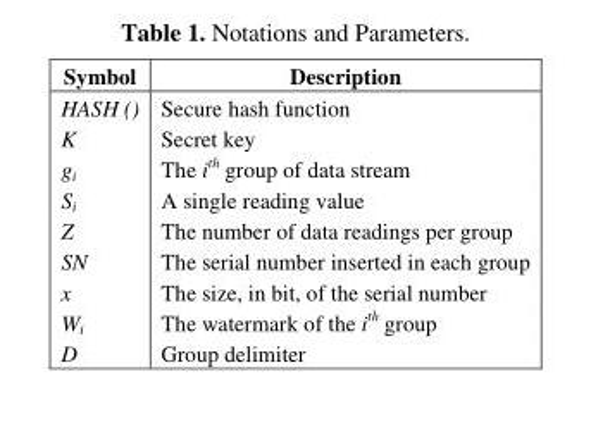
<table><thead><tr><td>Symbol</td><td>Description</td></tr></thead><tbody><tr><td>HASH ()</td><td>Secure hash function</td></tr><tr><td>K</td><td>Secret key</td></tr><tr><td>g<sub>i</sub></td><td>The i<sup>th</sup> group of data stream</td></tr><tr><td>S<sub>i</sub></td><td>A single reading value</td></tr><tr><td>Z</td><td>The number of data readings per group</td></tr><tr><td>SN</td><td>The serial number inserted in each group</td></tr><tr><td>x</td><td>The size, in bit, of the serial number</td></tr><tr><td>W<sub>i</sub></td><td>The watermark of the i<sup>th</sup> group</td></tr><tr><td>D</td><td>Group delimiter</td></tr></tbody></table>